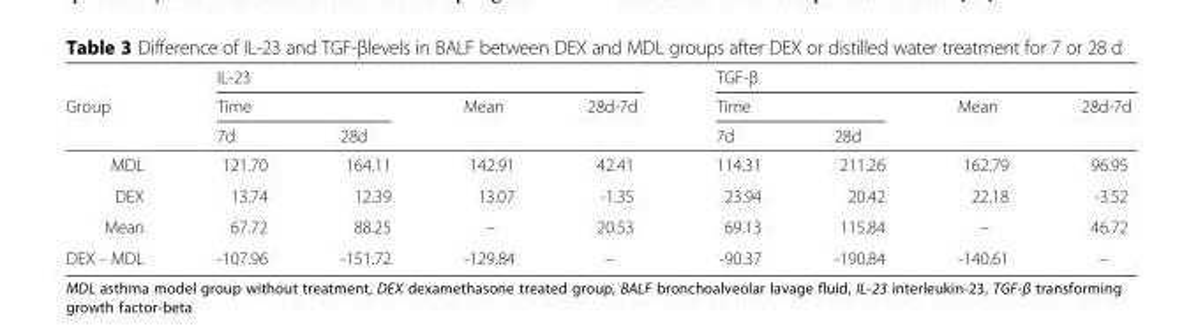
<table><thead><tr><td rowspan="3">Group</td><td colspan="4">IL-23</td><td colspan="4">TGF-β</td></tr><tr><td colspan="2">Time</td><td rowspan="2">Mean</td><td rowspan="2">28d-7d</td><td colspan="2">Time</td><td rowspan="2">Mean</td><td rowspan="2">28d-7d</td></tr><tr><td>7d</td><td>28d</td><td>7d</td><td>28d</td></tr></thead><tbody><tr><td>MDL</td><td>121.70</td><td>164.11</td><td>142.91</td><td>42.41</td><td>114.31</td><td>211.26</td><td>162.79</td><td>96.95</td></tr><tr><td>DEX</td><td>13.74</td><td>12.39</td><td>13.07</td><td>-1.35</td><td>23.94</td><td>20.42</td><td>22.18</td><td>-3.52</td></tr><tr><td>Mean</td><td>67.72</td><td>88.25</td><td>–</td><td>20.53</td><td>69.13</td><td>115.84</td><td>–</td><td>46.72</td></tr><tr><td>DEX - MDL</td><td>-107.96</td><td>-151.72</td><td>-129.84</td><td>–</td><td>-90.37</td><td>-190.84</td><td>-140.61</td><td>–</td></tr></tbody></table>